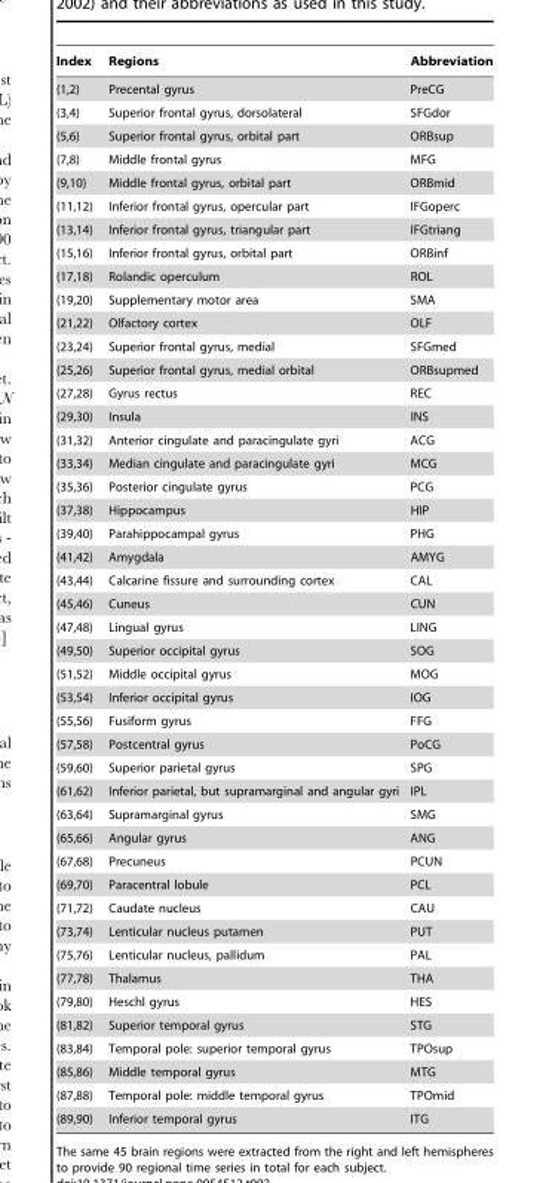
<table><thead><tr><td>Index</td><td>Regions</td><td>Abbreviation</td></tr></thead><tbody><tr><td>(1,2)</td><td>Precental gyrus</td><td>PreCG</td></tr><tr><td>(3,4)</td><td>Superior frontal gyrus, dorsolateral</td><td>SFGdor</td></tr><tr><td>(5,6)</td><td>Superior frontal gyrus, orbital part</td><td>ORBsup</td></tr><tr><td>(7,8)</td><td>Middle frontal gyrus</td><td>MFG</td></tr><tr><td>(9,10)</td><td>Middle frontal gyrus, orbital part</td><td>ORBmid</td></tr><tr><td>(11,12)</td><td>Inferior frontal gyrus, opercular part</td><td>IFGoperc</td></tr><tr><td>(13,14)</td><td>Inferior frontal gyrus, triangular part</td><td>IFGtriang</td></tr><tr><td>(15,16)</td><td>Inferior frontal gyrus, orbital part</td><td>ORBinf</td></tr><tr><td>(17,18)</td><td>Rolandic operculum</td><td>ROL</td></tr><tr><td>(19,20)</td><td>Supplementary motor area</td><td>SMA</td></tr><tr><td>(21,22)</td><td>Olfactory cortex</td><td>OLF</td></tr><tr><td>(23,24)</td><td>Superior frontal gyrus, medial</td><td>SFGmed</td></tr><tr><td>(25,26)</td><td>Superior frontal gyrus, medial orbital</td><td>ORBsupmed</td></tr><tr><td>(27,28)</td><td>Gyrus rectus</td><td>REC</td></tr><tr><td>(29,30)</td><td>Insula</td><td>INS</td></tr><tr><td>(31,32)</td><td>Anterior cingulate and paracingulate gyri</td><td>ACG</td></tr><tr><td>(33,34)</td><td>Median cingulate and paracingulate gyri</td><td>MCG</td></tr><tr><td>(35,36)</td><td>Posterior cingulate gyrus</td><td>PCG</td></tr><tr><td>(37,38)</td><td>Hippocampus</td><td>HIP</td></tr><tr><td>(39,40)</td><td>Parahippocampal gyrus</td><td>PHG</td></tr><tr><td>(41,42)</td><td>Amygdala</td><td>AMYG</td></tr><tr><td>(43,44)</td><td>Calcarine fissure and surrounding cortex</td><td>CAL</td></tr><tr><td>(45,46)</td><td>Cuneus</td><td>CUN</td></tr><tr><td>(47,48)</td><td>Lingual gyrus</td><td>LING</td></tr><tr><td>(49,50)</td><td>Superior occipital gyrus</td><td>SOG</td></tr><tr><td>(51,52)</td><td>Middle occipital gyrus</td><td>MOG</td></tr><tr><td>(53,54)</td><td>Inferior occipital gyrus</td><td>IOG</td></tr><tr><td>(55,56)</td><td>Fusiform gyrus</td><td>FFG</td></tr><tr><td>(57,58)</td><td>Postcentral gyrus</td><td>PoCG</td></tr><tr><td>(59,60)</td><td>Superior parietal gyrus</td><td>SPG</td></tr><tr><td>(61,62)</td><td>Inferior parietal, but supramarginal and angular gyri</td><td>IPL</td></tr><tr><td>(63,64)</td><td>Supramarginal gyrus</td><td>SMG</td></tr><tr><td>(65,66)</td><td>Angular gyrus</td><td>ANG</td></tr><tr><td>(67,68)</td><td>Precuneus</td><td>PCUN</td></tr><tr><td>(69,70)</td><td>Paracentral lobule</td><td>PCL</td></tr><tr><td>(71,72)</td><td>Caudate nucleus</td><td>CAU</td></tr><tr><td>(73,74)</td><td>Lenticular nucleus putamen</td><td>PUT</td></tr><tr><td>(75,76)</td><td>Lenticular nucleus, pallidum</td><td>PAL</td></tr><tr><td>(77,78)</td><td>Thalamus</td><td>THA</td></tr><tr><td>(79,80)</td><td>Heschl gyrus</td><td>HES</td></tr><tr><td>(81,82)</td><td>Superior temporal gyrus</td><td>STG</td></tr><tr><td>(83,84)</td><td>Temporal pole: superior temporal gyrus</td><td>TPOsup</td></tr><tr><td>(85,86)</td><td>Middle temporal gyrus</td><td>MTG</td></tr><tr><td>(87,88)</td><td>Temporal pole: middle temporal gyrus</td><td>TPOmid</td></tr><tr><td>(89,90)</td><td>Inferior temporal gyrus</td><td>ITG</td></tr></tbody></table>